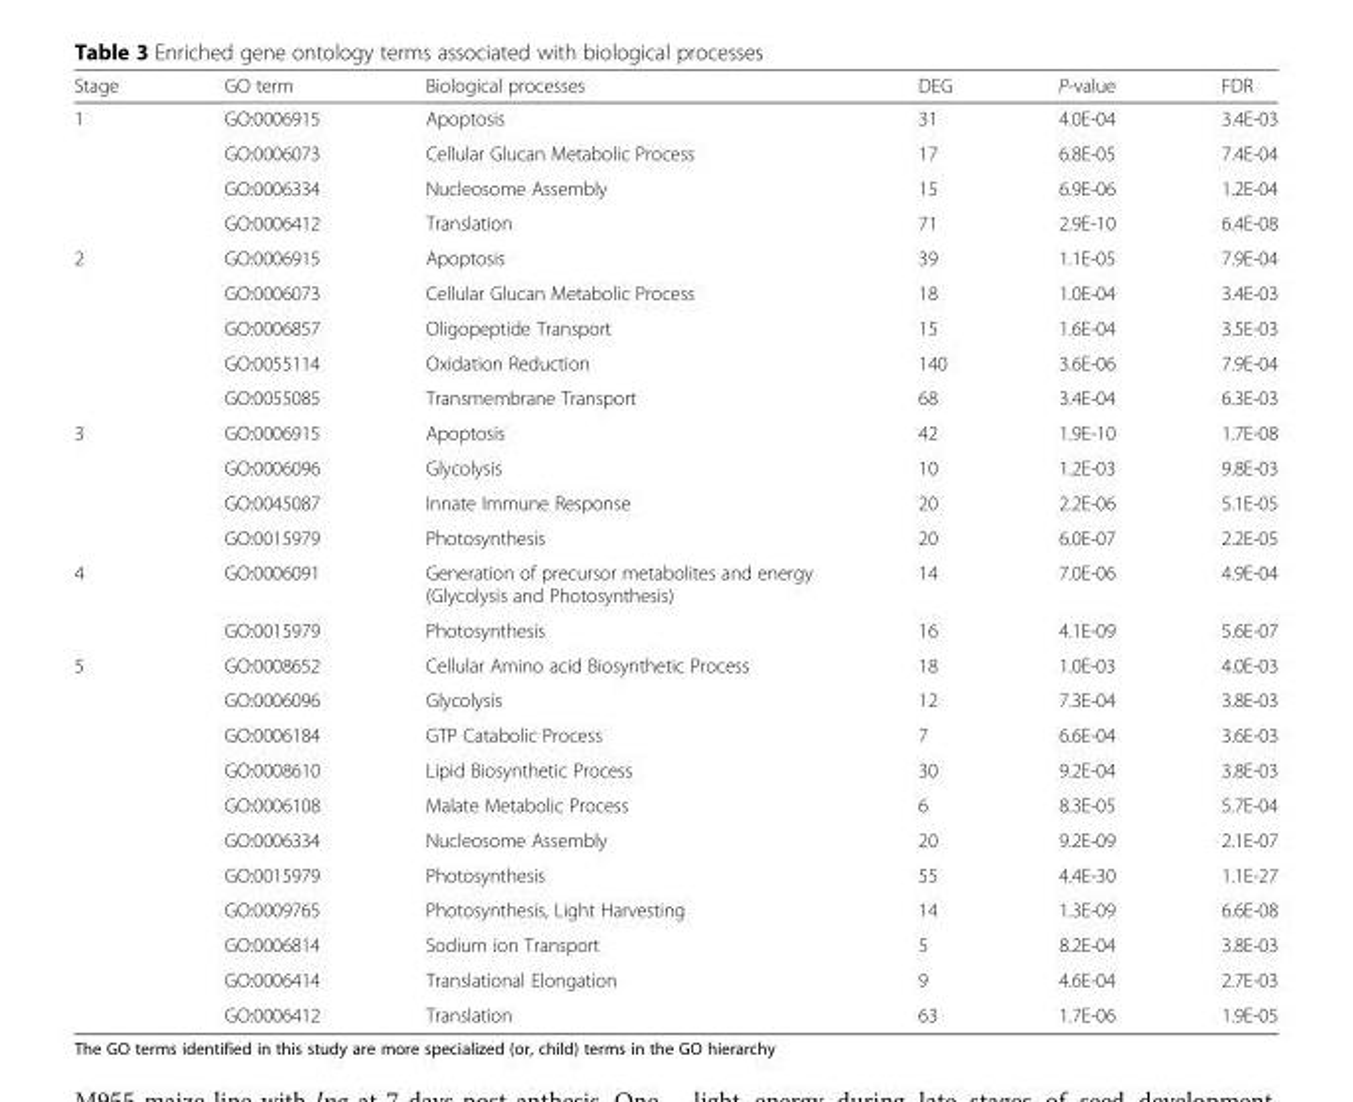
<table><thead><tr><td>Stage</td><td>GO term</td><td>Biological processes</td><td>DEG</td><td>P-value</td><td>FDR</td></tr></thead><tbody><tr><td rowspan="4">1</td><td>GO:0006915</td><td>Apoptosis</td><td>31</td><td>4.0E-04</td><td>3.4E-03</td></tr><tr><td>GO:0006073</td><td>Cellular Glucan Metabolic Process</td><td>17</td><td>6.8E-05</td><td>7.4E-04</td></tr><tr><td>GO:0006334</td><td>Nucleosome Assembly</td><td>15</td><td>6.9E-06</td><td>1.2E-04</td></tr><tr><td>GO:0006412</td><td>Translation</td><td>71</td><td>2.9E-10</td><td>6.4E-08</td></tr><tr><td rowspan="5">2</td><td>GO:0006915</td><td>Apoptosis</td><td>39</td><td>1.1E-05</td><td>7.9E-04</td></tr><tr><td>GO:0006073</td><td>Cellular Glucan Metabolic Process</td><td>18</td><td>1.0E-04</td><td>3.4E-03</td></tr><tr><td>GO:0006857</td><td>Oligopeptide Transport</td><td>15</td><td>1.6E-04</td><td>3.5E-03</td></tr><tr><td>GO:0055114</td><td>Oxidation Reduction</td><td>140</td><td>3.6E-06</td><td>7.9E-04</td></tr><tr><td>GO:0055085</td><td>Transmembrane Transport</td><td>68</td><td>3.4E-04</td><td>6.3E-03</td></tr><tr><td rowspan="4">3</td><td>GO:0006915</td><td>Apoptosis</td><td>42</td><td>1.9E-10</td><td>1.7E-08</td></tr><tr><td>GO:0006096</td><td>Glycolysis</td><td>10</td><td>1.2E-03</td><td>9.8E-03</td></tr><tr><td>GO:0045087</td><td>Innate Immune Response</td><td>20</td><td>2.2E-06</td><td>5.1E-05</td></tr><tr><td>GO:0015979</td><td>Photosynthesis</td><td>20</td><td>6.0E-07</td><td>2.2E-05</td></tr><tr><td rowspan="2">4</td><td>GO:0006091</td><td>Generation of precursor metabolites and energy (Glycolysis and Photosynthesis)</td><td>14</td><td>7.0E-06</td><td>4.9E-04</td></tr><tr><td>GO:0015979</td><td>Photosynthesis</td><td>16</td><td>4.1E-09</td><td>5.6E-07</td></tr><tr><td rowspan="11">5</td><td>GO:0008652</td><td>Cellular Amino acid Biosynthetic Process</td><td>18</td><td>1.0E-03</td><td>4.0E-03</td></tr><tr><td>GO:0006096</td><td>Glycolysis</td><td>12</td><td>7.3E-04</td><td>3.8E-03</td></tr><tr><td>GO:0006184</td><td>GTP Catabolic Process</td><td>7</td><td>6.6E-04</td><td>3.6E-03</td></tr><tr><td>GO:0008610</td><td>Lipid Biosynthetic Process</td><td>30</td><td>9.2E-04</td><td>3.8E-03</td></tr><tr><td>GO:0006108</td><td>Malate Metabolic Process</td><td>6</td><td>8.3E-05</td><td>5.7E-04</td></tr><tr><td>GO:0006334</td><td>Nucleosome Assembly</td><td>20</td><td>9.2E-09</td><td>2.1E-07</td></tr><tr><td>GO:0015979</td><td>Photosynthesis</td><td>55</td><td>4.4E-30</td><td>1.1E-27</td></tr><tr><td>GO:0009765</td><td>Photosynthesis, Light Harvesting</td><td>14</td><td>1.3E-09</td><td>6.6E-08</td></tr><tr><td>GO:0006814</td><td>Sodium ion Transport</td><td>5</td><td>8.2E-04</td><td>3.8E-03</td></tr><tr><td>GO:0006414</td><td>Translational Elongation</td><td>9</td><td>4.6E-04</td><td>2.7E-03</td></tr><tr><td>GO:0006412</td><td>Translation</td><td>63</td><td>1.7E-06</td><td>1.9E-05</td></tr></tbody></table>